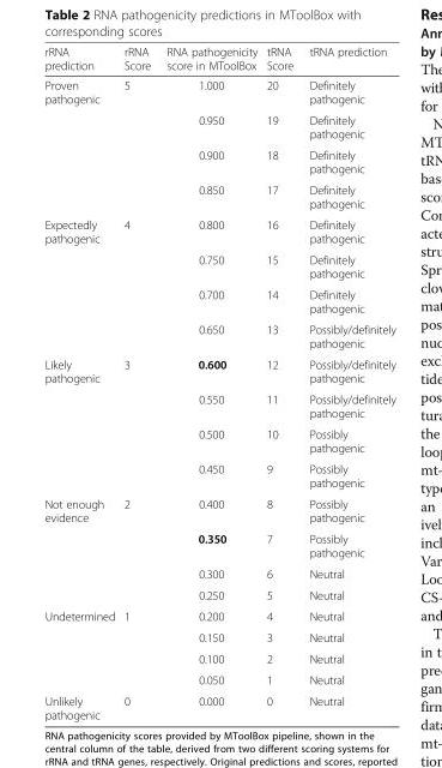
<table><thead><tr><td>rRNA prediction</td><td>rRNA Score</td><td>RNA pathogenicity score in MToolBox</td><td>tRNA Score</td><td>tRNA prediction</td></tr></thead><tbody><tr><td rowspan="4">Proven pathogenic</td><td rowspan="4">5</td><td>1.000</td><td>20</td><td>Definitely pathogenic</td></tr><tr><td>0.950</td><td>19</td><td>Definitely pathogenic</td></tr><tr><td>0.900</td><td>18</td><td>Definitely pathogenic</td></tr><tr><td>0.850</td><td>17</td><td>Definitely pathogenic</td></tr><tr><td rowspan="4">Expectedly pathogenic</td><td rowspan="4">4</td><td>0.800</td><td>16</td><td>Definitely pathogenic</td></tr><tr><td>0.750</td><td>15</td><td>Definitely pathogenic</td></tr><tr><td>0.700</td><td>14</td><td>Definitely pathogenic</td></tr><tr><td>0.650</td><td>13</td><td>Possibly/definitely pathogenic</td></tr><tr><td rowspan="4">Likely pathogenic</td><td rowspan="4">3</td><td>0.600</td><td>12</td><td>Possibly/definitely pathogenic</td></tr><tr><td>0.550</td><td>11</td><td>Possibly/definitely pathogenic</td></tr><tr><td>0.500</td><td>10</td><td>Possibly pathogenic</td></tr><tr><td>0.450</td><td>9</td><td>Possibly pathogenic</td></tr><tr><td rowspan="4">Not enough evidence</td><td rowspan="4">2</td><td>0.400</td><td>8</td><td>Possibly pathogenic</td></tr><tr><td>0.350</td><td>7</td><td>Possibly pathogenic</td></tr><tr><td>0.300</td><td>6</td><td>Neutral</td></tr><tr><td>0.250</td><td>5</td><td>Neutral</td></tr><tr><td rowspan="4">Undetermined</td><td rowspan="4">1</td><td>0.200</td><td>4</td><td>Neutral</td></tr><tr><td>0.150</td><td>3</td><td>Neutral</td></tr><tr><td>0.100</td><td>2</td><td>Neutral</td></tr><tr><td>0.050</td><td>1</td><td>Neutral</td></tr><tr><td>Unlikely pathogenic</td><td>0</td><td>0.000</td><td>0</td><td>Neutral</td></tr></tbody></table>